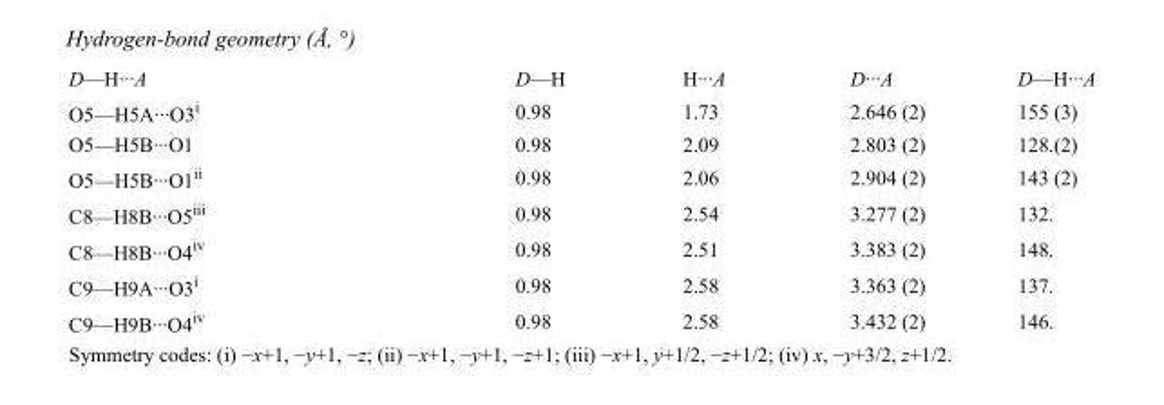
<table><tbody><tr><td>D—H···A</td><td>D—H</td><td>H···A</td><td>D···A</td><td>D—H···A</td></tr><tr><td>O5—H5A···O3<sup>i</sup></td><td>0.98</td><td>1.73</td><td>2.646 (2)</td><td>155 (3)</td></tr><tr><td>O5—H5B···O1</td><td>0.98</td><td>2.09</td><td>2.803 (2)</td><td>128.(2)</td></tr><tr><td>O5—H5B···O1<sup>ii</sup></td><td>0.98</td><td>2.06</td><td>2.904 (2)</td><td>143 (2)</td></tr><tr><td>C8—H8B···O5<sup>iii</sup></td><td>0.98</td><td>2.54</td><td>3.277 (2)</td><td>132.</td></tr><tr><td>C8—H8B···O4<sup>iv</sup></td><td>0.98</td><td>2.51</td><td>3.383 (2)</td><td>148.</td></tr><tr><td>C9—H9A···O3<sup>i</sup></td><td>0.98</td><td>2.58</td><td>3.363 (2)</td><td>137.</td></tr><tr><td>C9—H9B···O4<sup>iv</sup></td><td>0.98</td><td>2.58</td><td>3.432 (2)</td><td>146.</td></tr></tbody></table>